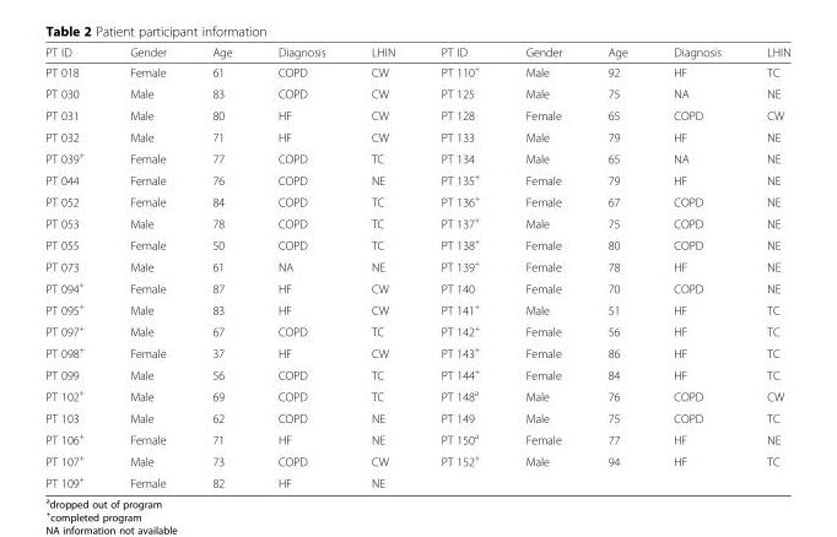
<table><thead><tr><td>PT ID</td><td>Gender</td><td>Age</td><td>Diagnosis</td><td>LHIN</td><td>PT ID</td><td>Gender</td><td>Age</td><td>Diagnosis</td><td>LHIN</td></tr></thead><tbody><tr><td>PT 018</td><td>Female</td><td>61</td><td>COPD</td><td>CW</td><td>PT 110<sup>+</sup></td><td>Male</td><td>92</td><td>HF</td><td>TC</td></tr><tr><td>PT 030</td><td>Male</td><td>83</td><td>COPD</td><td>CW</td><td>PT 125</td><td>Male</td><td>75</td><td>NA</td><td>NE</td></tr><tr><td>PT 031</td><td>Male</td><td>80</td><td>HF</td><td>CW</td><td>PT 128</td><td>Female</td><td>65</td><td>COPD</td><td>CW</td></tr><tr><td>PT 032</td><td>Male</td><td>71</td><td>HF</td><td>CW</td><td>PT 133</td><td>Male</td><td>79</td><td>HF</td><td>NE</td></tr><tr><td>PT 039<sup>+</sup></td><td>Female</td><td>77</td><td>COPD</td><td>TC</td><td>PT 134</td><td>Male</td><td>65</td><td>NA</td><td>NE</td></tr><tr><td>PT 044</td><td>Female</td><td>76</td><td>COPD</td><td>NE</td><td>PT 135<sup>+</sup></td><td>Female</td><td>79</td><td>HF</td><td>NE</td></tr><tr><td>PT 052</td><td>Female</td><td>84</td><td>COPD</td><td>TC</td><td>PT 136<sup>+</sup></td><td>Female</td><td>67</td><td>COPD</td><td>NE</td></tr><tr><td>PT 053</td><td>Male</td><td>78</td><td>COPD</td><td>TC</td><td>PT 137<sup>+</sup></td><td>Male</td><td>75</td><td>COPD</td><td>NE</td></tr><tr><td>PT 055</td><td>Female</td><td>50</td><td>COPD</td><td>TC</td><td>PT 138<sup>+</sup></td><td>Female</td><td>80</td><td>COPD</td><td>NE</td></tr><tr><td>PT 073</td><td>Male</td><td>61</td><td>NA</td><td>NE</td><td>PT 139<sup>+</sup></td><td>Female</td><td>78</td><td>HF</td><td>NE</td></tr><tr><td>PT 094<sup>+</sup></td><td>Female</td><td>87</td><td>HF</td><td>CW</td><td>PT 140</td><td>Female</td><td>70</td><td>COPD</td><td>NE</td></tr><tr><td>PT 095<sup>+</sup></td><td>Male</td><td>83</td><td>HF</td><td>CW</td><td>PT 141<sup>+</sup></td><td>Male</td><td>51</td><td>HF</td><td>TC</td></tr><tr><td>PT 097<sup>+</sup></td><td>Male</td><td>67</td><td>COPD</td><td>TC</td><td>PT 142<sup>+</sup></td><td>Female</td><td>56</td><td>HF</td><td>TC</td></tr><tr><td>PT 098<sup>+</sup></td><td>Female</td><td>37</td><td>HF</td><td>CW</td><td>PT 143<sup>+</sup></td><td>Female</td><td>86</td><td>HF</td><td>TC</td></tr><tr><td>PT 099</td><td>Male</td><td>56</td><td>COPD</td><td>TC</td><td>PT 144<sup>+</sup></td><td>Female</td><td>84</td><td>HF</td><td>TC</td></tr><tr><td>PT 102<sup>+</sup></td><td>Male</td><td>69</td><td>COPD</td><td>TC</td><td>PT 148<sup>a</sup></td><td>Male</td><td>76</td><td>COPD</td><td>CW</td></tr><tr><td>PT 103</td><td>Male</td><td>62</td><td>COPD</td><td>NE</td><td>PT 149</td><td>Male</td><td>75</td><td>COPD</td><td>TC</td></tr><tr><td>PT 106<sup>+</sup></td><td>Female</td><td>71</td><td>HF</td><td>NE</td><td>PT 150<sup>a</sup></td><td>Female</td><td>77</td><td>HF</td><td>NE</td></tr><tr><td>PT 107<sup>+</sup></td><td>Male</td><td>73</td><td>COPD</td><td>CW</td><td>PT 152<sup>+</sup></td><td>Male</td><td>94</td><td>HF</td><td>TC</td></tr><tr><td>PT 109<sup>+</sup></td><td>Female</td><td>82</td><td>HF</td><td>NE</td><td></td><td></td><td></td><td></td><td></td></tr></tbody></table>